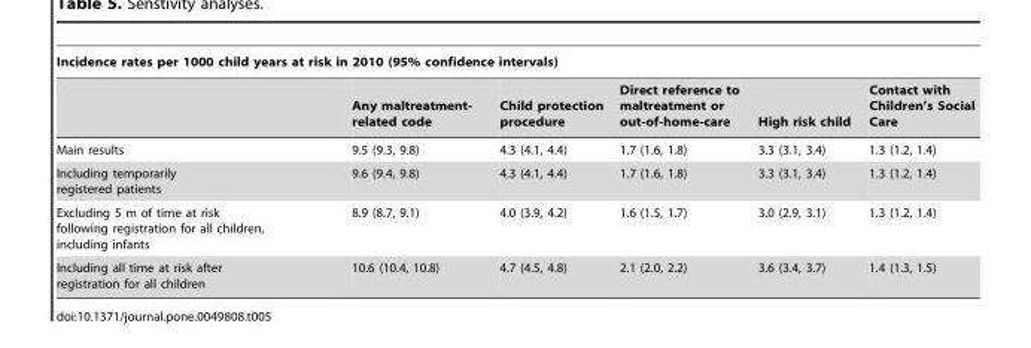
<table><thead><tr><td colspan="6">Incidence rates per 1000 child years at risk in 2010 (95% confidence intervals)</td></tr><tr><td></td><td>Any maltreatment- related code</td><td>Child protection procedure</td><td>Direct reference to maltreatment or out-of-home-care</td><td>High risk child</td><td>Contact with Children’s Social Care</td></tr></thead><tbody><tr><td>Main results</td><td>9.5 (9.3, 9.8)</td><td>4.3 (4.1, 4.4)</td><td>1.7 (1.6, 1.8)</td><td>3.3 (3.1, 3.4)</td><td>1.3 (1.2, 1.4)</td></tr><tr><td>Including temporarily registered patients</td><td>9.6 (9.4, 9.8)</td><td>4.3 (4.1, 4.4)</td><td>1.7 (1.6, 1.8)</td><td>3.3 (3.1, 3.4)</td><td>1.3 (1.2, 1.4)</td></tr><tr><td>Excluding 5 m of time at risk following registration for all children, including infants</td><td>8.9 (8.7, 9.1)</td><td>4.0 (3.9, 4.2)</td><td>1.6 (1.5, 1.7)</td><td>3.0 (2.9, 3.1)</td><td>1.3 (1.2, 1.4)</td></tr><tr><td>Including all time at risk after registration for all children</td><td>10.6 (10.4, 10.8)</td><td>4.7 (4.5, 4.8)</td><td>2.1 (2.0, 2.2)</td><td>3.6 (3.4, 3.7)</td><td>1.4 (1.3, 1.5)</td></tr></tbody></table>